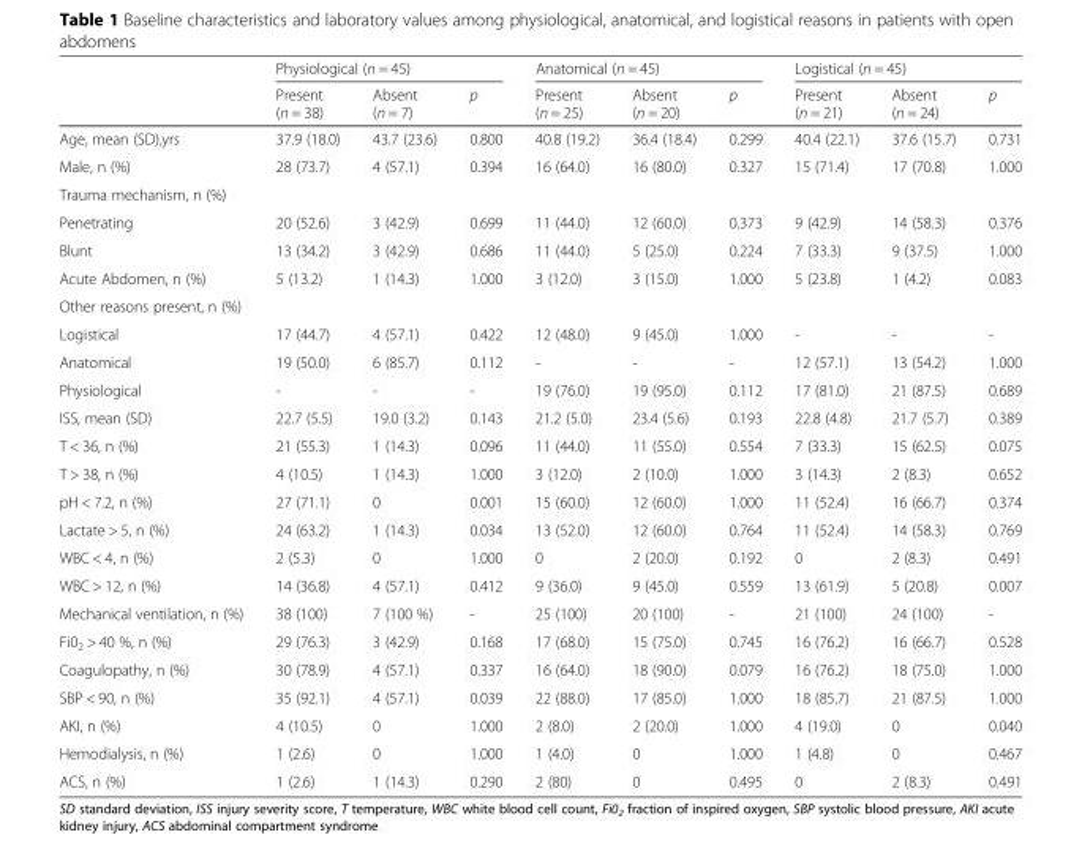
<table><thead><tr><td rowspan="2"></td><td colspan="3">Physiological (n = 45)</td><td colspan="3">Anatomical (n = 45)</td><td colspan="3">Logistical (n = 45)</td></tr><tr><td>Present (n = 38)</td><td>Absent (n = 7)</td><td>p</td><td>Present (n = 25)</td><td>Absent (n = 20)</td><td>p</td><td>Present (n = 21)</td><td>Absent (n = 24)</td><td>p</td></tr></thead><tbody><tr><td>Age, mean (SD),yrs</td><td>37.9 (18.0)</td><td>43.7 (23.6)</td><td>0.800</td><td>40.8 (19.2)</td><td>36.4 (18.4)</td><td>0.299</td><td>40.4 (22.1)</td><td>37.6 (15.7)</td><td>0.731</td></tr><tr><td>Male, n (%)</td><td>28 (73.7)</td><td>4 (57.1)</td><td>0.394</td><td>16 (64.0)</td><td>16 (80.0)</td><td>0.327</td><td>15 (71.4)</td><td>17 (70.8)</td><td>1.000</td></tr><tr><td colspan="10">Trauma mechanism, n (%)</td></tr><tr><td>Penetrating</td><td>20 (52.6)</td><td>3 (42.9)</td><td>0.699</td><td>11 (44.0)</td><td>12 (60.0)</td><td>0.373</td><td>9 (42.9)</td><td>14 (58.3)</td><td>0.376</td></tr><tr><td>Blunt</td><td>13 (34.2)</td><td>3 (42.9)</td><td>0.686</td><td>11 (44.0)</td><td>5 (25.0)</td><td>0.224</td><td>7 (33.3)</td><td>9 (37.5)</td><td>1.000</td></tr><tr><td>Acute Abdomen, n (%)</td><td>5 (13.2)</td><td>1 (14.3)</td><td>1.000</td><td>3 (12.0)</td><td>3 (15.0)</td><td>1.000</td><td>5 (23.8)</td><td>1 (4.2)</td><td>0.083</td></tr><tr><td colspan="10">Other reasons present, n (%)</td></tr><tr><td>Logistical</td><td>17 (44.7)</td><td>4 (57.1)</td><td>0.422</td><td>12 (48.0)</td><td>9 (45.0)</td><td>1.000</td><td>-</td><td>-</td><td>-</td></tr><tr><td>Anatomical</td><td>19 (50.0)</td><td>6 (85.7)</td><td>0.112</td><td>-</td><td>-</td><td>-</td><td>12 (57.1)</td><td>13 (54.2)</td><td>1.000</td></tr><tr><td>Physiological</td><td>-</td><td>-</td><td>-</td><td>19 (76.0)</td><td>19 (95.0)</td><td>0.112</td><td>17 (81.0)</td><td>21 (87.5)</td><td>0.689</td></tr><tr><td>ISS, mean (SD)</td><td>22.7 (5.5)</td><td>19.0 (3.2)</td><td>0.143</td><td>21.2 (5.0)</td><td>23.4 (5.6)</td><td>0.193</td><td>22.8 (4.8)</td><td>21.7 (5.7)</td><td>0.389</td></tr><tr><td>T &lt; 36, n (%)</td><td>21 (55.3)</td><td>1 (14.3)</td><td>0.096</td><td>11 (44.0)</td><td>11 (55.0)</td><td>0.554</td><td>7 (33.3)</td><td>15 (62.5)</td><td>0.075</td></tr><tr><td>T &gt; 38, n (%)</td><td>4 (10.5)</td><td>1 (14.3)</td><td>1.000</td><td>3 (12.0)</td><td>2 (10.0)</td><td>1.000</td><td>3 (14.3)</td><td>2 (8.3)</td><td>0.652</td></tr><tr><td>pH &lt; 7.2, n (%)</td><td>27 (71.1)</td><td>0</td><td>0.001</td><td>15 (60.0)</td><td>12 (60.0)</td><td>1.000</td><td>11 (52.4)</td><td>16 (66.7)</td><td>0.374</td></tr><tr><td>Lactate &gt; 5, n (%)</td><td>24 (63.2)</td><td>1 (14.3)</td><td>0.034</td><td>13 (52.0)</td><td>12 (60.0)</td><td>0.764</td><td>11 (52.4)</td><td>14 (58.3)</td><td>0.769</td></tr><tr><td>WBC &lt; 4, n (%)</td><td>2 (5.3)</td><td>0</td><td>1.000</td><td>0</td><td>2 (20.0)</td><td>0.192</td><td>0</td><td>2 (8.3)</td><td>0.491</td></tr><tr><td>WBC &gt; 12, n (%)</td><td>14 (36.8)</td><td>4 (57.1)</td><td>0.412</td><td>9 (36.0)</td><td>9 (45.0)</td><td>0.559</td><td>13 (61.9)</td><td>5 (20.8)</td><td>0.007</td></tr><tr><td>Mechanical ventilation, n (%)</td><td>38 (100)</td><td>7 (100 %)</td><td>-</td><td>25 (100)</td><td>20 (100)</td><td>-</td><td>21 (100)</td><td>24 (100)</td><td>-</td></tr><tr><td>Fi0<sub>2</sub> &gt; 40 %, n (%)</td><td>29 (76.3)</td><td>3 (42.9)</td><td>0.168</td><td>17 (68.0)</td><td>15 (75.0)</td><td>0.745</td><td>16 (76.2)</td><td>16 (66.7)</td><td>0.528</td></tr><tr><td>Coagulopathy, n (%)</td><td>30 (78.9)</td><td>4 (57.1)</td><td>0.337</td><td>16 (64.0)</td><td>18 (90.0)</td><td>0.079</td><td>16 (76.2)</td><td>18 (75.0)</td><td>1.000</td></tr><tr><td>SBP &lt; 90, n (%)</td><td>35 (92.1)</td><td>4 (57.1)</td><td>0.039</td><td>22 (88.0)</td><td>17 (85.0)</td><td>1.000</td><td>18 (85.7)</td><td>21 (87.5)</td><td>1.000</td></tr><tr><td>AKI, n (%)</td><td>4 (10.5)</td><td>0</td><td>1.000</td><td>2 (8.0)</td><td>2 (20.0)</td><td>1.000</td><td>4 (19.0)</td><td>0</td><td>0.040</td></tr><tr><td>Hemodialysis, n (%)</td><td>1 (2.6)</td><td>0</td><td>1.000</td><td>1 (4.0)</td><td>0</td><td>1.000</td><td>1 (4.8)</td><td>0</td><td>0.467</td></tr><tr><td>ACS, n (%)</td><td>1 (2.6)</td><td>1 (14.3)</td><td>0.290</td><td>2 (80)</td><td>0</td><td>0.495</td><td>0</td><td>2 (8.3)</td><td>0.491</td></tr></tbody></table>